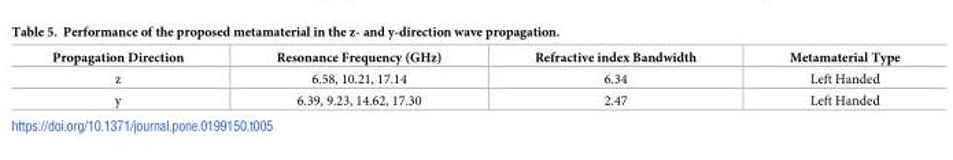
<table><thead><tr><td>Propagation Direction</td><td>Resonance Frequency (GHz)</td><td>Refractive index Bandwidth</td><td>Metamaterial Type</td></tr></thead><tbody><tr><td>z</td><td>6.58, 10.21, 17.14</td><td>6.34</td><td>Left Handed</td></tr><tr><td>y</td><td>6.39, 9.23, 14.62, 17.30</td><td>2.47</td><td>Left Handed</td></tr></tbody></table>